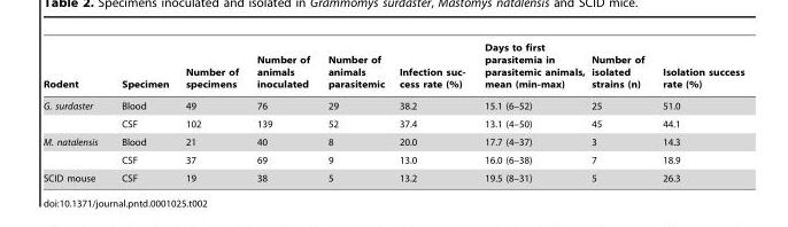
<table><thead><tr><td>Rodent</td><td>Specimen</td><td>Number of specimens</td><td>Number of animals inoculated</td><td>Number of animals parasitemic</td><td>Infection suc- cess rate (%)</td><td>Days to first parasitemia in parasitemic animals, mean (min-max)</td><td>Number of isolated strains (n)</td><td>Isolation success rate (%)</td></tr></thead><tbody><tr><td rowspan="2">G. surdaster</td><td>Blood</td><td>49</td><td>76</td><td>29</td><td>38.2</td><td>15.1 (6–52)</td><td>25</td><td>51.0</td></tr><tr><td>CSF</td><td>102</td><td>139</td><td>52</td><td>37.4</td><td>13.1 (4–50)</td><td>45</td><td>44.1</td></tr><tr><td rowspan="2">M. natalensis</td><td>Blood</td><td>21</td><td>40</td><td>8</td><td>20.0</td><td>17.7 (4–37)</td><td>3</td><td>14.3</td></tr><tr><td>CSF</td><td>37</td><td>69</td><td>9</td><td>13.0</td><td>16.0 (6–38)</td><td>7</td><td>18.9</td></tr><tr><td>SCID mouse</td><td>CSF</td><td>19</td><td>38</td><td>5</td><td>13.2</td><td>19.5 (8–31)</td><td>5</td><td>26.3</td></tr></tbody></table>